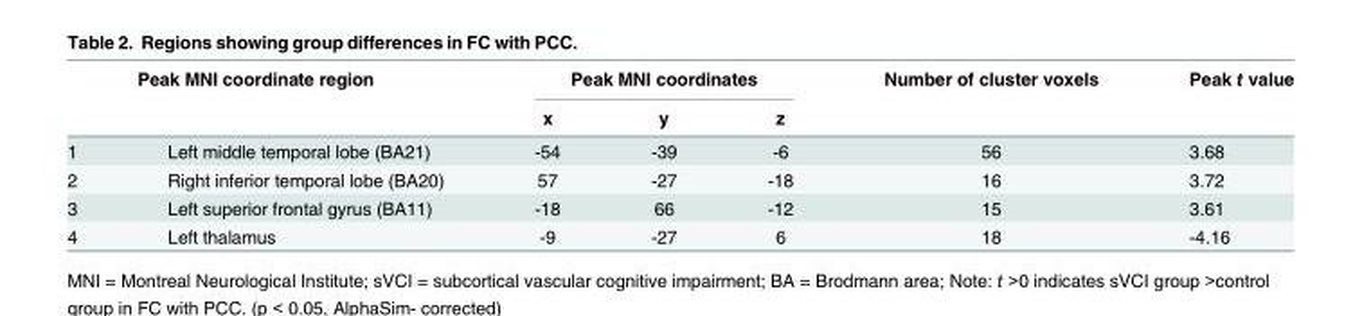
<table><thead><tr><td colspan="2">Peak MNI coordinate region</td><td colspan="3">Peak MNI coordinates</td><td rowspan="2">Number of cluster voxels</td><td rowspan="2">Peak t value</td></tr><tr><td></td><td></td><td>x</td><td>y</td><td>z</td></tr></thead><tbody><tr><td>1</td><td>Left middle temporal lobe (BA21)</td><td>-54</td><td>-39</td><td>-6</td><td>56</td><td>3.68</td></tr><tr><td>2</td><td>Right inferior temporal lobe (BA20)</td><td>57</td><td>-27</td><td>-18</td><td>16</td><td>3.72</td></tr><tr><td>3</td><td>Left superior frontal gyrus (BA11)</td><td>-18</td><td>66</td><td>-12</td><td>15</td><td>3.61</td></tr><tr><td>4</td><td>Left thalamus</td><td>-9</td><td>-27</td><td>6</td><td>18</td><td>-4.16</td></tr></tbody></table>